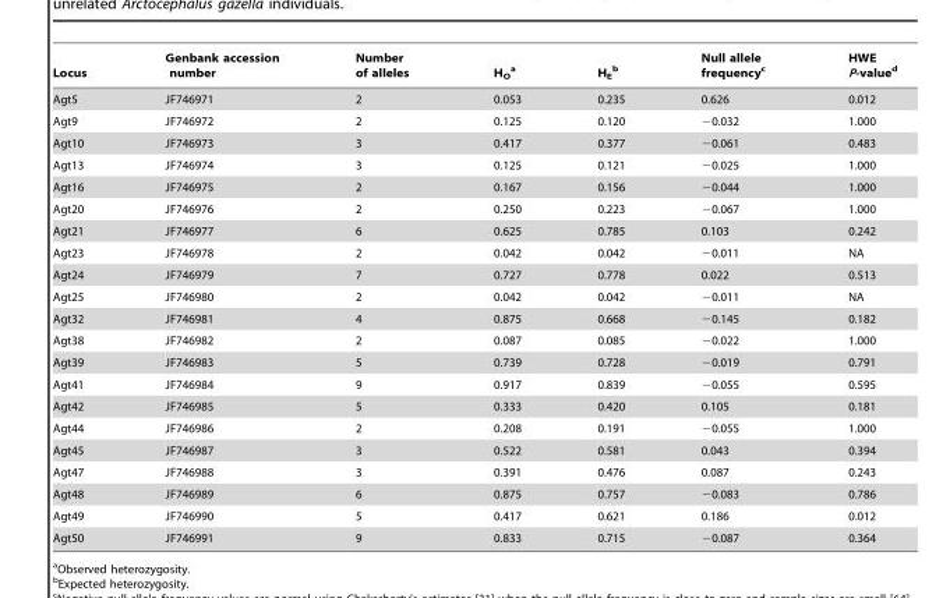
<table><thead><tr><td>Locus</td><td>Genbank accession number</td><td>Number of alleles</td><td>H<sub>O</sub> a</td><td>H<sub>E</sub> b</td><td>Null allele frequency<sup>c</sup></td><td>HWE P-value<sup>d</sup></td></tr></thead><tbody><tr><td>Agt5</td><td>JF746971</td><td>2</td><td>0.053</td><td>0.235</td><td>0.626</td><td>0.012</td></tr><tr><td>Agt9</td><td>JF746972</td><td>2</td><td>0.125</td><td>0.120</td><td>−0.032</td><td>1.000</td></tr><tr><td>Agt10</td><td>JF746973</td><td>3</td><td>0.417</td><td>0.377</td><td>−0.061</td><td>0.483</td></tr><tr><td>Agt13</td><td>JF746974</td><td>3</td><td>0.125</td><td>0.121</td><td>−0.025</td><td>1.000</td></tr><tr><td>Agt16</td><td>JF746975</td><td>2</td><td>0.167</td><td>0.156</td><td>−0.044</td><td>1.000</td></tr><tr><td>Agt20</td><td>JF746976</td><td>2</td><td>0.250</td><td>0.223</td><td>−0.067</td><td>1.000</td></tr><tr><td>Agt21</td><td>JF746977</td><td>6</td><td>0.625</td><td>0.785</td><td>0.103</td><td>0.242</td></tr><tr><td>Agt23</td><td>JF746978</td><td>2</td><td>0.042</td><td>0.042</td><td>−0.011</td><td>NA</td></tr><tr><td>Agt24</td><td>JF746979</td><td>7</td><td>0.727</td><td>0.778</td><td>0.022</td><td>0.513</td></tr><tr><td>Agt25</td><td>JF746980</td><td>2</td><td>0.042</td><td>0.042</td><td>−0.011</td><td>NA</td></tr><tr><td>Agt32</td><td>JF746981</td><td>4</td><td>0.875</td><td>0.668</td><td>−0.145</td><td>0.182</td></tr><tr><td>Agt38</td><td>JF746982</td><td>2</td><td>0.087</td><td>0.085</td><td>−0.022</td><td>1.000</td></tr><tr><td>Agt39</td><td>JF746983</td><td>5</td><td>0.739</td><td>0.728</td><td>−0.019</td><td>0.791</td></tr><tr><td>Agt41</td><td>JF746984</td><td>9</td><td>0.917</td><td>0.839</td><td>−0.055</td><td>0.595</td></tr><tr><td>Agt42</td><td>JF746985</td><td>5</td><td>0.333</td><td>0.420</td><td>0.105</td><td>0.181</td></tr><tr><td>Agt44</td><td>JF746986</td><td>2</td><td>0.208</td><td>0.191</td><td>−0.055</td><td>1.000</td></tr><tr><td>Agt45</td><td>JF746987</td><td>3</td><td>0.522</td><td>0.581</td><td>0.043</td><td>0.394</td></tr><tr><td>Agt47</td><td>JF746988</td><td>3</td><td>0.391</td><td>0.476</td><td>0.087</td><td>0.243</td></tr><tr><td>Agt48</td><td>JF746989</td><td>6</td><td>0.875</td><td>0.757</td><td>−0.083</td><td>0.786</td></tr><tr><td>Agt49</td><td>JF746990</td><td>5</td><td>0.417</td><td>0.621</td><td>0.186</td><td>0.012</td></tr><tr><td>Agt50</td><td>JF746991</td><td>9</td><td>0.833</td><td>0.715</td><td>−0.087</td><td>0.364</td></tr></tbody></table>